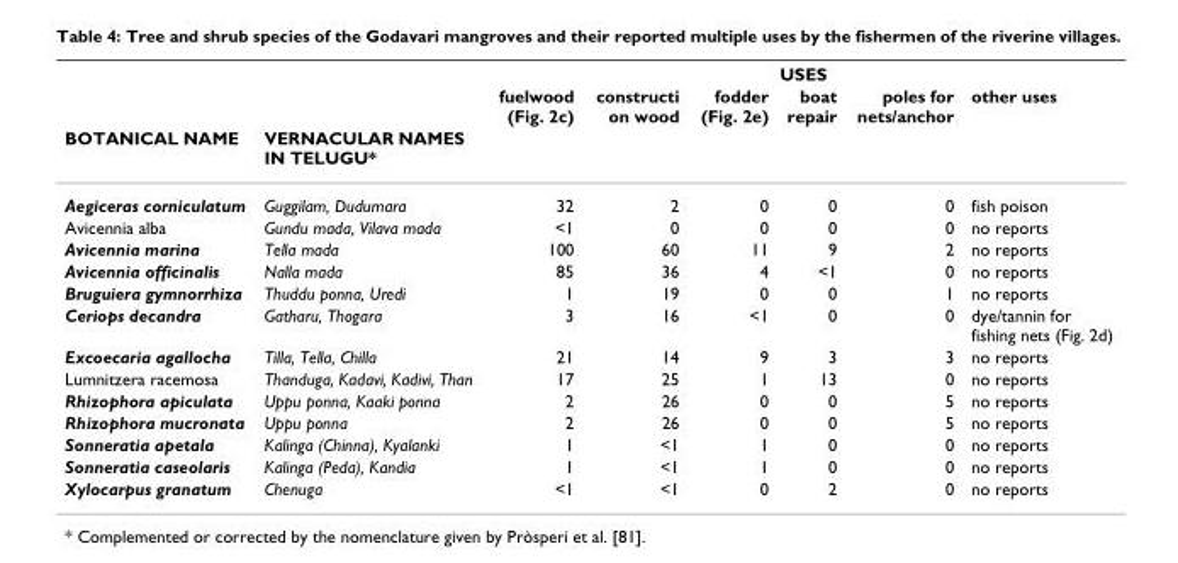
<table><thead><tr><td rowspan="3">BOTANICAL NAME</td><td rowspan="3">VERNACULAR NAMES IN TELUGU*</td><td colspan="6">USES</td></tr><tr><td rowspan="2">fuelwood (Fig. 2c)</td><td rowspan="2">constructi on wood</td><td rowspan="2">fodder (Fig. 2e)</td><td rowspan="2">boat repair</td><td rowspan="2">poles for nets/anchor</td><td rowspan="2">other uses</td></tr><tr></tr></thead><tbody><tr><td>Aegiceras corniculatum</td><td>Guggilam, Dudumara</td><td>32</td><td>2</td><td>0</td><td>0</td><td>0</td><td>fish poison</td></tr><tr><td>Avicennia alba</td><td>Gundu mada, Vilava mada</td><td>&lt;1</td><td>0</td><td>0</td><td>0</td><td>0</td><td>no reports</td></tr><tr><td>Avicennia marina</td><td>Tella mada</td><td>100</td><td>60</td><td>11</td><td>9</td><td>2</td><td>no reports</td></tr><tr><td>Avicennia officinalis</td><td>Nalla mada</td><td>85</td><td>36</td><td>4</td><td>&lt;1</td><td>0</td><td>no reports</td></tr><tr><td>Bruguiera gymnorrhiza</td><td>Thuddu ponna, Uredi</td><td>1</td><td>19</td><td>0</td><td>0</td><td>1</td><td>no reports</td></tr><tr><td>Ceriops decandra</td><td>Gatharu, Thogara</td><td>3</td><td>16</td><td>&lt;1</td><td>0</td><td>0</td><td>dye/tannin for fishing nets (Fig. 2d)</td></tr><tr><td>Excoecaria agallocha</td><td>Tilla, Tella, Chilla</td><td>21</td><td>14</td><td>9</td><td>3</td><td>3</td><td>no reports</td></tr><tr><td>Lumnitzera racemosa</td><td>Thanduga, Kadavi, Kadivi, Than</td><td>17</td><td>25</td><td>1</td><td>13</td><td>0</td><td>no reports</td></tr><tr><td>Rhizophora apiculata</td><td>Uppu ponna, Kaaki ponna</td><td>2</td><td>26</td><td>0</td><td>0</td><td>5</td><td>no reports</td></tr><tr><td>Rhizophora mucronata</td><td>Uppu ponna</td><td>2</td><td>26</td><td>0</td><td>0</td><td>5</td><td>no reports</td></tr><tr><td>Sonneratia apetala</td><td>Kalinga (Chinna), Kyalanki</td><td>1</td><td>&lt;1</td><td>1</td><td>0</td><td>0</td><td>no reports</td></tr><tr><td>Sonneratia caseolaris</td><td>Kalinga (Peda), Kandia</td><td>1</td><td>&lt;1</td><td>1</td><td>0</td><td>0</td><td>no reports</td></tr><tr><td>Xylocarpus granatum</td><td>Chenuga</td><td>&lt;1</td><td>&lt;1</td><td>0</td><td>2</td><td>0</td><td>no reports</td></tr></tbody></table>